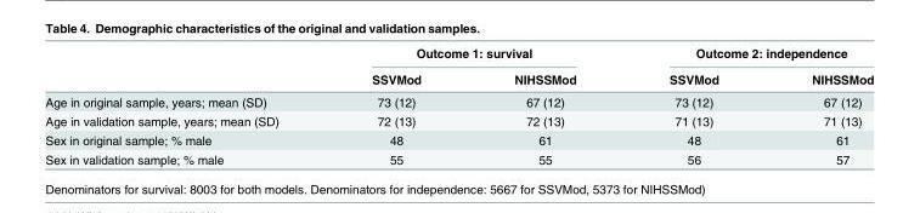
<table><thead><tr><td rowspan="2"></td><td colspan="2">Outcome 1: survival</td><td colspan="2">Outcome 2: independence</td></tr><tr><td>SSVMod</td><td>NIHSSMod</td><td>SSVMod</td><td>NIHSSMod</td></tr></thead><tbody><tr><td>Age in original sample, years; mean (SD)</td><td>73 (12)</td><td>67 (12)</td><td>73 (12)</td><td>67 (12)</td></tr><tr><td>Age in validation sample, years; mean (SD)</td><td>72 (13)</td><td>72 (13)</td><td>71 (13)</td><td>71 (13)</td></tr><tr><td>Sex in original sample; % male</td><td>48</td><td>61</td><td>48</td><td>61</td></tr><tr><td>Sex in validation sample; % male</td><td>55</td><td>55</td><td>56</td><td>57</td></tr></tbody></table>